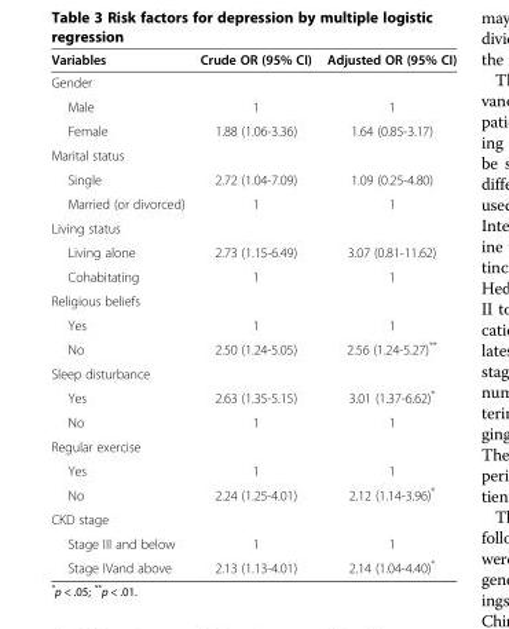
<table><thead><tr><td>Variables</td><td>Crude OR (95% CI)</td><td>Adjusted OR (95% CI)</td></tr></thead><tbody><tr><td colspan="3">Gender</td></tr><tr><td>Male</td><td>1</td><td>1</td></tr><tr><td>Female</td><td>1.88 (1.06-3.36)</td><td>1.64 (0.85-3.17)</td></tr><tr><td colspan="3">Marital status</td></tr><tr><td>Single</td><td>2.72 (1.04-7.09)</td><td>1.09 (0.25-4.80)</td></tr><tr><td>Married (or divorced)</td><td>1</td><td>1</td></tr><tr><td colspan="3">Living status</td></tr><tr><td>Living alone</td><td>2.73 (1.15-6.49)</td><td>3.07 (0.81-11.62)</td></tr><tr><td>Cohabitating</td><td>1</td><td>1</td></tr><tr><td colspan="3">Religious beliefs</td></tr><tr><td>Yes</td><td>1</td><td>1</td></tr><tr><td>No</td><td>2.50 (1.24-5.05)</td><td>2.56 (1.24-5.27)**</td></tr><tr><td colspan="3">Sleep disturbance</td></tr><tr><td>Yes</td><td>2.63 (1.35-5.15)</td><td>3.01 (1.37-6.62)*</td></tr><tr><td>No</td><td>1</td><td>1</td></tr><tr><td colspan="3">Regular exercise</td></tr><tr><td>Yes</td><td>1</td><td>1</td></tr><tr><td>No</td><td>2.24 (1.25-4.01)</td><td>2.12 (1.14-3.96)*</td></tr><tr><td colspan="3">CKD stage</td></tr><tr><td>Stage III and below</td><td>1</td><td>1</td></tr><tr><td>Stage IVand above</td><td>2.13 (1.13-4.01)</td><td>2.14 (1.04-4.40)*</td></tr></tbody></table>